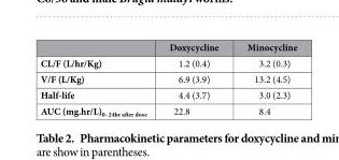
<table><thead><tr><td></td><td>Doxycycline</td><td>Minocycline</td></tr></thead><tbody><tr><td>CL/F (L/hr/Kg)</td><td>1.2 (0.4)</td><td>3.2 (0.3)</td></tr><tr><td>V/F (L/Kg)</td><td>6.9 (3.9)</td><td>13.2 (4.5)</td></tr><tr><td>Half-life</td><td>4.4 (3.7)</td><td>3.0 (2.3)</td></tr><tr><td>AUC (mg.hr/L)<sub>0–24hr after dose</sub></td><td>22.8</td><td>8.4</td></tr></tbody></table>